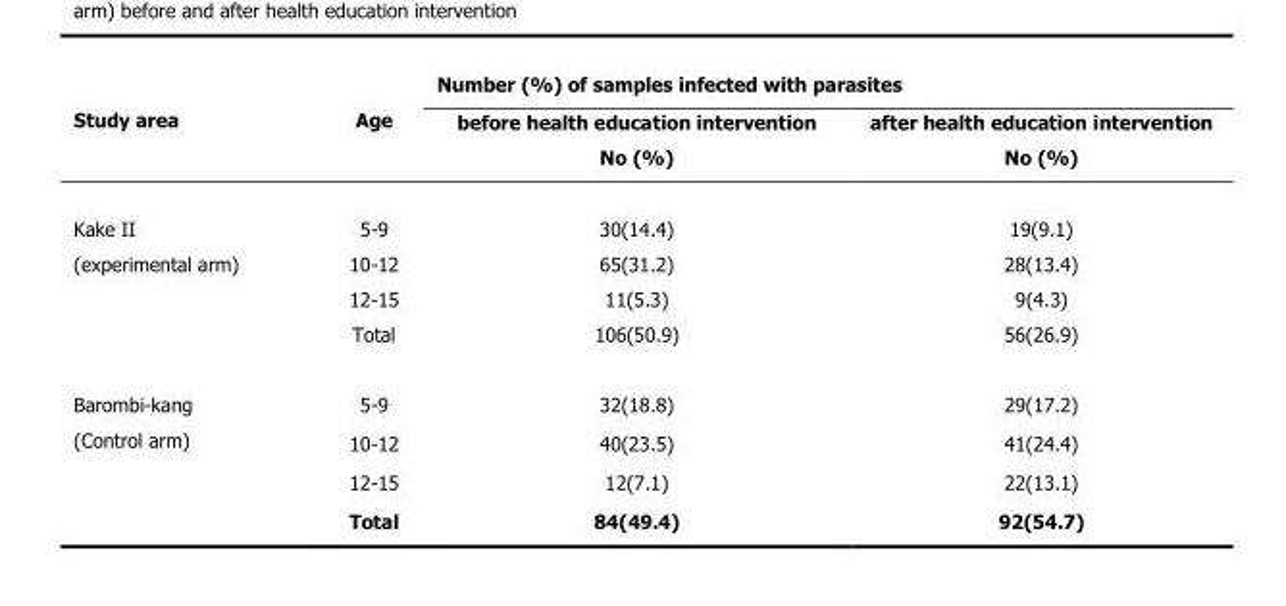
<table><thead><tr><td rowspan="2">Study area</td><td rowspan="2">Age</td><td colspan="2">Number (%) of samples infected with parasites</td></tr><tr><td>before health education intervention No (%)</td><td>after health education intervention No (%)</td></tr></thead><tbody><tr><td rowspan="4">Kake II (experimental arm)</td><td>5-9</td><td>30(14.4)</td><td>19(9.1)</td></tr><tr><td>10-12</td><td>65(31.2)</td><td>28(13.4)</td></tr><tr><td>12-15</td><td>11(5.3)</td><td>9(4.3)</td></tr><tr><td>Total</td><td>106(50.9)</td><td>56(26.9)</td></tr><tr><td rowspan="4">Barombi-kang (Control arm)</td><td>5-9</td><td>32(18.8)</td><td>29(17.2)</td></tr><tr><td>10-12</td><td>40(23.5)</td><td>41(24.4)</td></tr><tr><td>12-15</td><td>12(7.1)</td><td>22(13.1)</td></tr><tr><td>Total</td><td>84(49.4)</td><td>92(54.7)</td></tr></tbody></table>